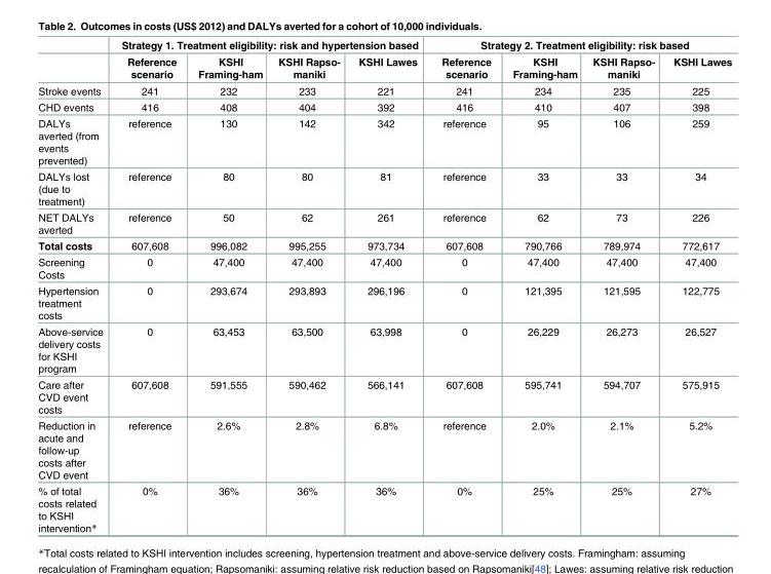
<table><thead><tr><td rowspan="2"></td><td colspan="4">Strategy 1. Treatment eligibility: risk and hypertension based</td><td colspan="4">Strategy 2. Treatment eligibility: risk based</td></tr><tr><td>Reference scenario</td><td>KSHI Framing-ham</td><td>KSHI Rapso- maniki</td><td>KSHI Lawes</td><td>Reference scenario</td><td>KSHI Framing-ham</td><td>KSHI Rapso- maniki</td><td>KSHI Lawes</td></tr></thead><tbody><tr><td>Stroke events</td><td>241</td><td>232</td><td>233</td><td>221</td><td>241</td><td>234</td><td>235</td><td>225</td></tr><tr><td>CHD events</td><td>416</td><td>408</td><td>404</td><td>392</td><td>416</td><td>410</td><td>407</td><td>398</td></tr><tr><td>DALYs averted (from events prevented)</td><td>reference</td><td>130</td><td>142</td><td>342</td><td>reference</td><td>95</td><td>106</td><td>259</td></tr><tr><td>DALYs lost (due to treatment)</td><td>reference</td><td>80</td><td>80</td><td>81</td><td>reference</td><td>33</td><td>33</td><td>34</td></tr><tr><td>NET DALYs averted</td><td>reference</td><td>50</td><td>62</td><td>261</td><td>reference</td><td>62</td><td>73</td><td>226</td></tr><tr><td>Total costs</td><td>607,608</td><td>996,082</td><td>995,255</td><td>973,734</td><td>607,608</td><td>790,766</td><td>789,974</td><td>772,617</td></tr><tr><td>Screening Costs</td><td>0</td><td>47,400</td><td>47,400</td><td>47,400</td><td>0</td><td>47,400</td><td>47,400</td><td>47,400</td></tr><tr><td>Hypertension treatment costs</td><td>0</td><td>293,674</td><td>293,893</td><td>296,196</td><td>0</td><td>121,395</td><td>121,595</td><td>122,775</td></tr><tr><td>Above-service delivery costs for KSHI program</td><td>0</td><td>63,453</td><td>63,500</td><td>63,998</td><td>0</td><td>26,229</td><td>26,273</td><td>26,527</td></tr><tr><td>Care after CVD event costs</td><td>607,608</td><td>591,555</td><td>590,462</td><td>566,141</td><td>607,608</td><td>595,741</td><td>594,707</td><td>575,915</td></tr><tr><td>Reduction in acute and follow-up costs after CVD event</td><td>reference</td><td>2.6%</td><td>2.8%</td><td>6.8%</td><td>reference</td><td>2.0%</td><td>2.1%</td><td>5.2%</td></tr><tr><td>% of total costs related to KSHI intervention*</td><td>0%</td><td>36%</td><td>36%</td><td>36%</td><td>0%</td><td>25%</td><td>25%</td><td>27%</td></tr></tbody></table>